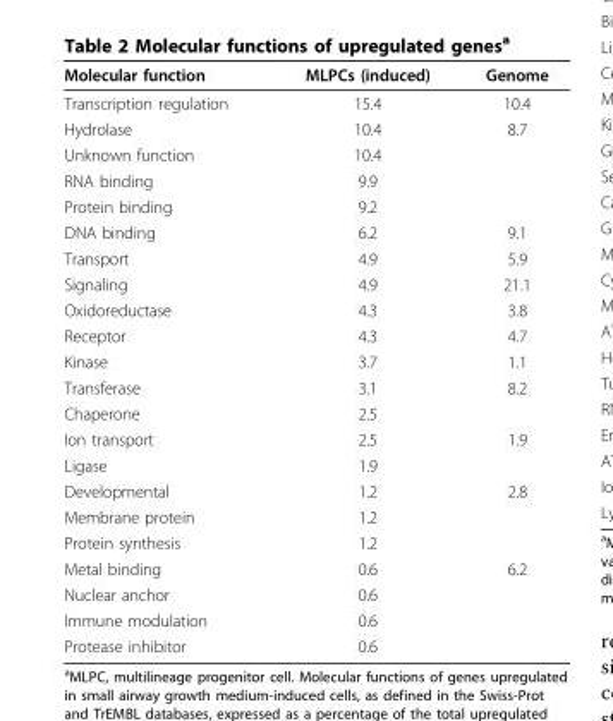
<table><thead><tr><td>Molecular function</td><td>MLPCs (induced)</td><td>Genome</td></tr></thead><tbody><tr><td>Transcription regulation</td><td>15.4</td><td>10.4</td></tr><tr><td>Hydrolase</td><td>10.4</td><td>8.7</td></tr><tr><td>Unknown function</td><td>10.4</td><td></td></tr><tr><td>RNA binding</td><td>9.9</td><td></td></tr><tr><td>Protein binding</td><td>9.2</td><td></td></tr><tr><td>DNA binding</td><td>6.2</td><td>9.1</td></tr><tr><td>Transport</td><td>4.9</td><td>5.9</td></tr><tr><td>Signaling</td><td>4.9</td><td>21.1</td></tr><tr><td>Oxidoreductase</td><td>4.3</td><td>3.8</td></tr><tr><td>Receptor</td><td>4.3</td><td>4.7</td></tr><tr><td>Kinase</td><td>3.7</td><td>1.1</td></tr><tr><td>Transferase</td><td>3.1</td><td>8.2</td></tr><tr><td>Chaperone</td><td>2.5</td><td></td></tr><tr><td>Ion transport</td><td>2.5</td><td>1.9</td></tr><tr><td>Ligase</td><td>1.9</td><td></td></tr><tr><td>Developmental</td><td>1.2</td><td>2.8</td></tr><tr><td>Membrane protein</td><td>1.2</td><td></td></tr><tr><td>Protein synthesis</td><td>1.2</td><td></td></tr><tr><td>Metal binding</td><td>0.6</td><td>6.2</td></tr><tr><td>Nuclear anchor</td><td>0.6</td><td></td></tr><tr><td>Immune modulation</td><td>0.6</td><td></td></tr><tr><td>Protease inhibitor</td><td>0.6</td><td></td></tr></tbody></table>